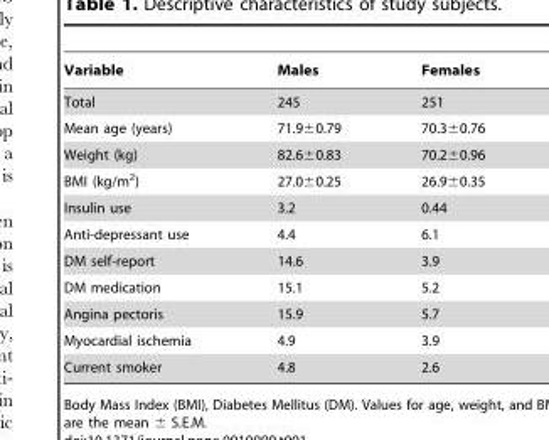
<table><thead><tr><td>Variable</td><td>Males</td><td>Females</td></tr></thead><tbody><tr><td>Total</td><td>245</td><td>251</td></tr><tr><td>Mean age (years)</td><td>71.9±0.79</td><td>70.3±0.76</td></tr><tr><td>Weight (kg)</td><td>82.6±0.83</td><td>70.2±0.96</td></tr><tr><td>BMI (kg/m<sup>2</sup>)</td><td>27.0±0.25</td><td>26.9±0.35</td></tr><tr><td>Insulin use</td><td>3.2</td><td>0.44</td></tr><tr><td>Anti-depressant use</td><td>4.4</td><td>6.1</td></tr><tr><td>DM self-report</td><td>14.6</td><td>3.9</td></tr><tr><td>DM medication</td><td>15.1</td><td>5.2</td></tr><tr><td>Angina pectoris</td><td>15.9</td><td>5.7</td></tr><tr><td>Myocardial ischemia</td><td>4.9</td><td>3.9</td></tr><tr><td>Current smoker</td><td>4.8</td><td>2.6</td></tr></tbody></table>